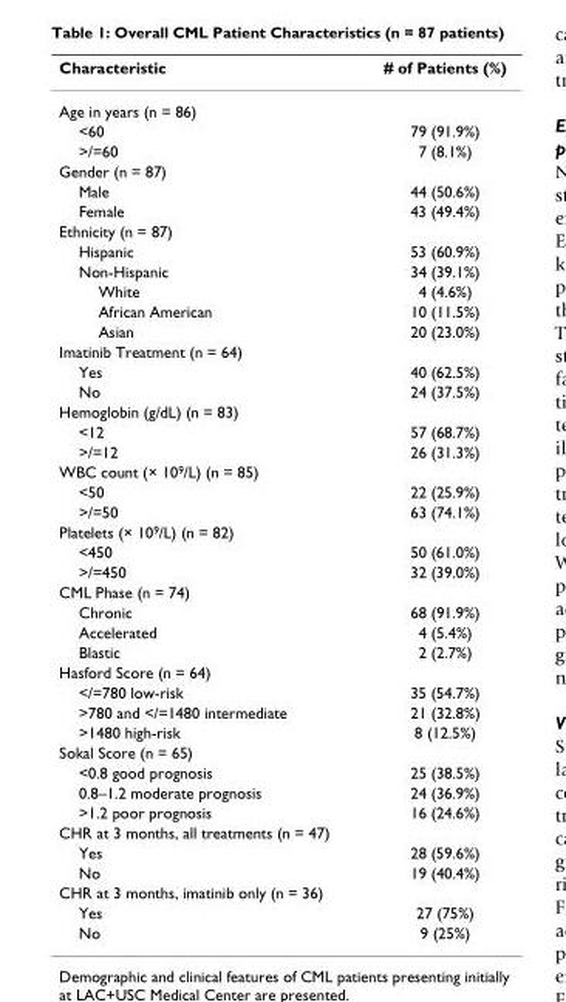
<table><thead><tr><td>Characteristic</td><td># of Patients (%)</td></tr></thead><tbody><tr><td colspan="2">Age in years (n = 86)</td></tr><tr><td>&lt;60</td><td>79 (91.9%)</td></tr><tr><td>&gt;/=60</td><td>7 (8.1%)</td></tr><tr><td colspan="2">Gender (n = 87)</td></tr><tr><td>Male</td><td>44 (50.6%)</td></tr><tr><td>Female</td><td>43 (49.4%)</td></tr><tr><td colspan="2">Ethnicity (n = 87)</td></tr><tr><td>Hispanic</td><td>53 (60.9%)</td></tr><tr><td>Non-Hispanic</td><td>34 (39.1%)</td></tr><tr><td>White</td><td>4 (4.6%)</td></tr><tr><td>African American</td><td>10 (11.5%)</td></tr><tr><td>Asian</td><td>20 (23.0%)</td></tr><tr><td colspan="2">Imatinib Treatment (n = 64)</td></tr><tr><td>Yes</td><td>40 (62.5%)</td></tr><tr><td>No</td><td>24 (37.5%)</td></tr><tr><td colspan="2">Hemoglobin (g/dL) (n = 83)</td></tr><tr><td>&lt;12</td><td>57 (68.7%)</td></tr><tr><td>&gt;/=12</td><td>26 (31.3%)</td></tr><tr><td colspan="2">WBC count (× 10<sup>9</sup>/L) (n = 85)</td></tr><tr><td>&lt;50</td><td>22 (25.9%)</td></tr><tr><td>&gt;/=50</td><td>63 (74.1%)</td></tr><tr><td colspan="2">Platelets (× 10<sup>9</sup>/L) (n = 82)</td></tr><tr><td>&lt;450</td><td>50 (61.0%)</td></tr><tr><td>&gt;/=450</td><td>32 (39.0%)</td></tr><tr><td colspan="2">CML Phase (n = 74)</td></tr><tr><td>Chronic</td><td>68 (91.9%)</td></tr><tr><td>Accelerated</td><td>4 (5.4%)</td></tr><tr><td>Blastic</td><td>2 (2.7%)</td></tr><tr><td colspan="2">Hasford Score (n = 64)</td></tr><tr><td>&lt;/=780 low-risk</td><td>35 (54.7%)</td></tr><tr><td>&gt;780 and &lt;/=1480 intermediate</td><td>21 (32.8%)</td></tr><tr><td>&gt;1480 high-risk</td><td>8 (12.5%)</td></tr><tr><td colspan="2">Sokal Score (n = 65)</td></tr><tr><td>&lt;0.8 good prognosis</td><td>25 (38.5%)</td></tr><tr><td>0.8–1.2 moderate prognosis</td><td>24 (36.9%)</td></tr><tr><td>&gt;1.2 poor prognosis</td><td>16 (24.6%)</td></tr><tr><td colspan="2">CHR at 3 months, all treatments (n = 47)</td></tr><tr><td>Yes</td><td>28 (59.6%)</td></tr><tr><td>No</td><td>19 (40.4%)</td></tr><tr><td colspan="2">CHR at 3 months, imatinib only (n = 36)</td></tr><tr><td>Yes</td><td>27 (75%)</td></tr><tr><td>No</td><td>9 (25%)</td></tr></tbody></table>